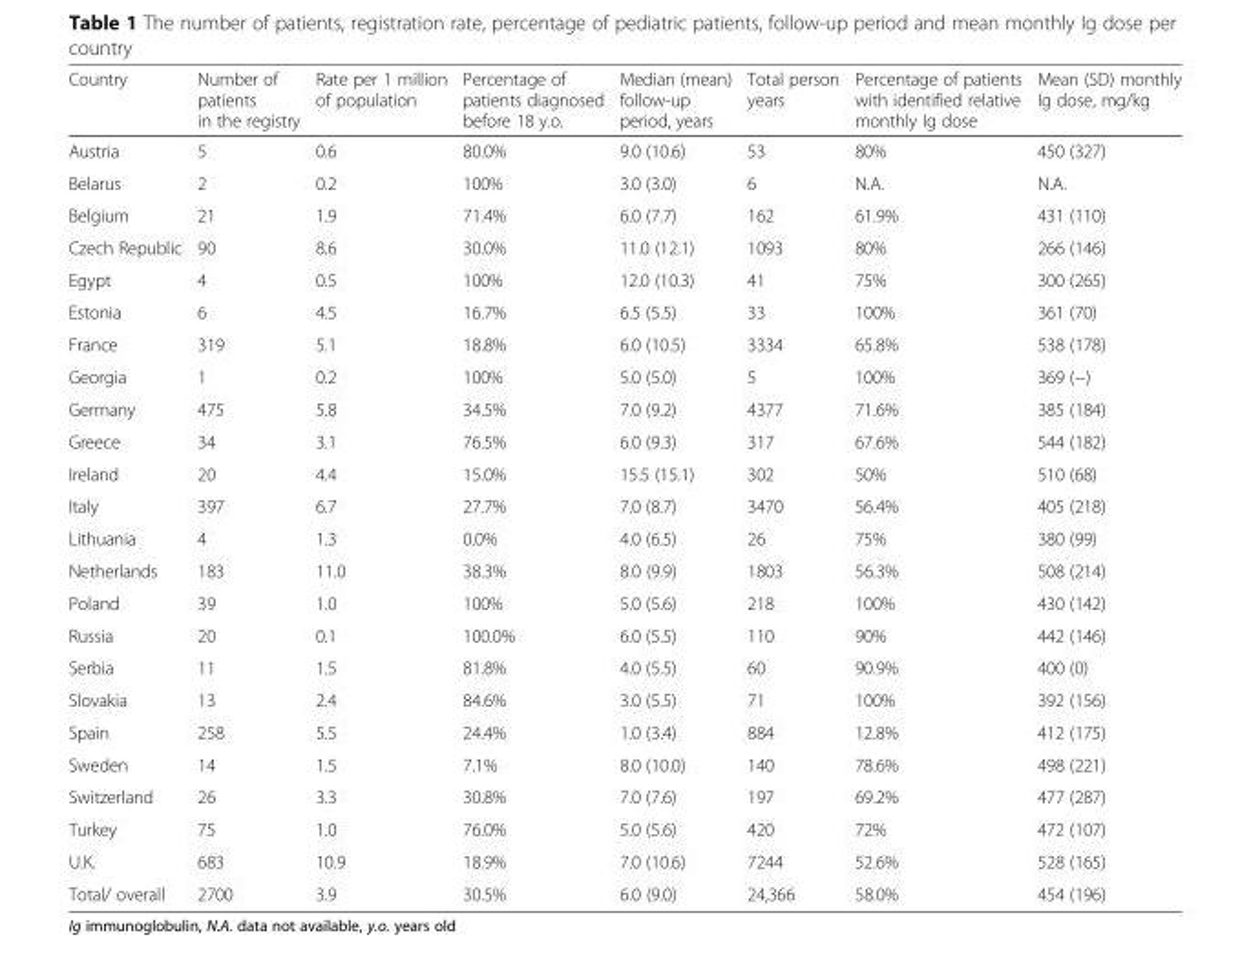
<table><thead><tr><td>Country</td><td>Number of patients in the registry</td><td>Rate per 1 million of population</td><td>Percentage of patients diagnosed before 18 y.o.</td><td>Median (mean) follow-up period, years</td><td>Total person years</td><td>Percentage of patients with identified relative monthly Ig dose</td><td>Mean (SD) monthly Ig dose, mg/kg</td></tr></thead><tbody><tr><td>Austria</td><td>5</td><td>0.6</td><td>80.0%</td><td>9.0 (10.6)</td><td>53</td><td>80%</td><td>450 (327)</td></tr><tr><td>Belarus</td><td>2</td><td>0.2</td><td>100%</td><td>3.0 (3.0)</td><td>6</td><td>N.A.</td><td>N.A.</td></tr><tr><td>Belgium</td><td>21</td><td>1.9</td><td>71.4%</td><td>6.0 (7.7)</td><td>162</td><td>61.9%</td><td>431 (110)</td></tr><tr><td>Czech Republic</td><td>90</td><td>8.6</td><td>30.0%</td><td>11.0 (12.1)</td><td>1093</td><td>80%</td><td>266 (146)</td></tr><tr><td>Egypt</td><td>4</td><td>0.5</td><td>100%</td><td>12.0 (10.3)</td><td>41</td><td>75%</td><td>300 (265)</td></tr><tr><td>Estonia</td><td>6</td><td>4.5</td><td>16.7%</td><td>6.5 (5.5)</td><td>33</td><td>100%</td><td>361 (70)</td></tr><tr><td>France</td><td>319</td><td>5.1</td><td>18.8%</td><td>6.0 (10.5)</td><td>3334</td><td>65.8%</td><td>538 (178)</td></tr><tr><td>Georgia</td><td>1</td><td>0.2</td><td>100%</td><td>5.0 (5.0)</td><td>5</td><td>100%</td><td>369 (−)</td></tr><tr><td>Germany</td><td>475</td><td>5.8</td><td>34.5%</td><td>7.0 (9.2)</td><td>4377</td><td>71.6%</td><td>385 (184)</td></tr><tr><td>Greece</td><td>34</td><td>3.1</td><td>76.5%</td><td>6.0 (9.3)</td><td>317</td><td>67.6%</td><td>544 (182)</td></tr><tr><td>Ireland</td><td>20</td><td>4.4</td><td>15.0%</td><td>15.5 (15.1)</td><td>302</td><td>50%</td><td>510 (68)</td></tr><tr><td>Italy</td><td>397</td><td>6.7</td><td>27.7%</td><td>7.0 (8.7)</td><td>3470</td><td>56.4%</td><td>405 (218)</td></tr><tr><td>Lithuania</td><td>4</td><td>1.3</td><td>0.0%</td><td>4.0 (6.5)</td><td>26</td><td>75%</td><td>380 (99)</td></tr><tr><td>Netherlands</td><td>183</td><td>11.0</td><td>38.3%</td><td>8.0 (9.9)</td><td>1803</td><td>56.3%</td><td>508 (214)</td></tr><tr><td>Poland</td><td>39</td><td>1.0</td><td>100%</td><td>5.0 (5.6)</td><td>218</td><td>100%</td><td>430 (142)</td></tr><tr><td>Russia</td><td>20</td><td>0.1</td><td>100.0%</td><td>6.0 (5.5)</td><td>110</td><td>90%</td><td>442 (146)</td></tr><tr><td>Serbia</td><td>11</td><td>1.5</td><td>81.8%</td><td>4.0 (5.5)</td><td>60</td><td>90.9%</td><td>400 (0)</td></tr><tr><td>Slovakia</td><td>13</td><td>2.4</td><td>84.6%</td><td>3.0 (5.5)</td><td>71</td><td>100%</td><td>392 (156)</td></tr><tr><td>Spain</td><td>258</td><td>5.5</td><td>24.4%</td><td>1.0 (3.4)</td><td>884</td><td>12.8%</td><td>412 (175)</td></tr><tr><td>Sweden</td><td>14</td><td>1.5</td><td>7.1%</td><td>8.0 (10.0)</td><td>140</td><td>78.6%</td><td>498 (221)</td></tr><tr><td>Switzerland</td><td>26</td><td>3.3</td><td>30.8%</td><td>7.0 (7.6)</td><td>197</td><td>69.2%</td><td>477 (287)</td></tr><tr><td>Turkey</td><td>75</td><td>1.0</td><td>76.0%</td><td>5.0 (5.6)</td><td>420</td><td>72%</td><td>472 (107)</td></tr><tr><td>U.K.</td><td>683</td><td>10.9</td><td>18.9%</td><td>7.0 (10.6)</td><td>7244</td><td>52.6%</td><td>528 (165)</td></tr><tr><td>Total/ overall</td><td>2700</td><td>3.9</td><td>30.5%</td><td>6.0 (9.0)</td><td>24,366</td><td>58.0%</td><td>454 (196)</td></tr></tbody></table>